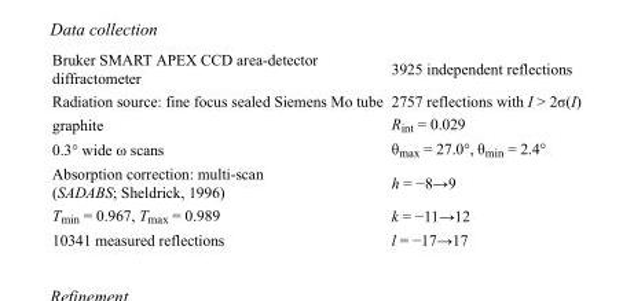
<table><tbody><tr><td>Bruker SMART APEX CCD area-detector diffractometer</td><td>3925 independent reflections</td></tr><tr><td>Radiation source: fine focus sealed Siemens Mo tube</td><td>2757 reflections with I &gt; 2σ(I)</td></tr><tr><td>graphite</td><td>R<sub>int</sub> = 0.029</td></tr><tr><td>0.3° wide ω scans</td><td>θ<sub>max</sub> = 27.0°, θ<sub>min</sub> = 2.4°</td></tr><tr><td>Absorption correction: multi-scan (SADABS; Sheldrick, 1996)</td><td>h = −8→9</td></tr><tr><td>T<sub>min</sub> = 0.967, T<sub>max</sub> = 0.989</td><td>k = −11→12</td></tr><tr><td>10341 measured reflections</td><td>l = −17→17</td></tr></tbody></table>